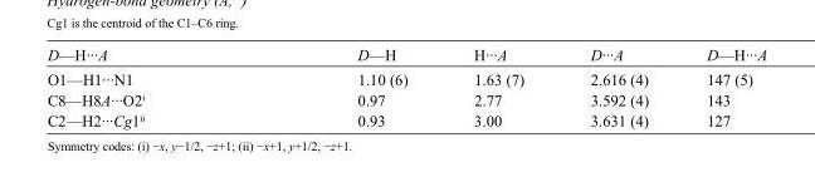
<table><tbody><tr><td>D—H···A</td><td>D—H</td><td>H···A</td><td>D···A</td><td>D—H···A</td></tr><tr><td>O1—H1···N1</td><td>1.10 (6)</td><td>1.63 (7)</td><td>2.616 (4)</td><td>147 (5)</td></tr><tr><td>C8—H8A···O2<sup>i</sup></td><td>0.97</td><td>2.77</td><td>3.592 (4)</td><td>143</td></tr><tr><td>C2—H2···Cg1<sup>ii</sup></td><td>0.93</td><td>3.00</td><td>3.631 (4)</td><td>127</td></tr></tbody></table>